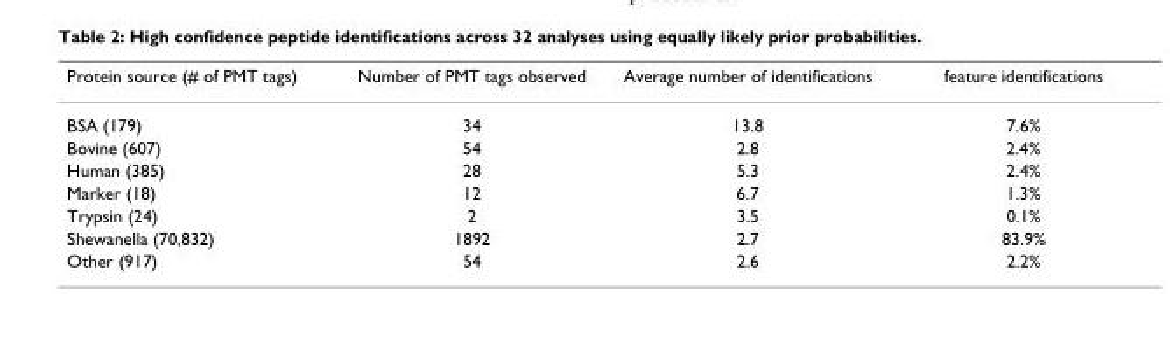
<table><thead><tr><td>Protein source (# of PMT tags)</td><td>Number of PMT tags observed</td><td>Average number of identifications</td><td>feature identifications</td></tr></thead><tbody><tr><td>BSA (179)</td><td>34</td><td>13.8</td><td>7.6%</td></tr><tr><td>Bovine (607)</td><td>54</td><td>2.8</td><td>2.4%</td></tr><tr><td>Human (385)</td><td>28</td><td>5.3</td><td>2.4%</td></tr><tr><td>Marker (18)</td><td>12</td><td>6.7</td><td>1.3%</td></tr><tr><td>Trypsin (24)</td><td>2</td><td>3.5</td><td>0.1%</td></tr><tr><td>Shewanella (70,832)</td><td>1892</td><td>2.7</td><td>83.9%</td></tr><tr><td>Other (917)</td><td>54</td><td>2.6</td><td>2.2%</td></tr></tbody></table>